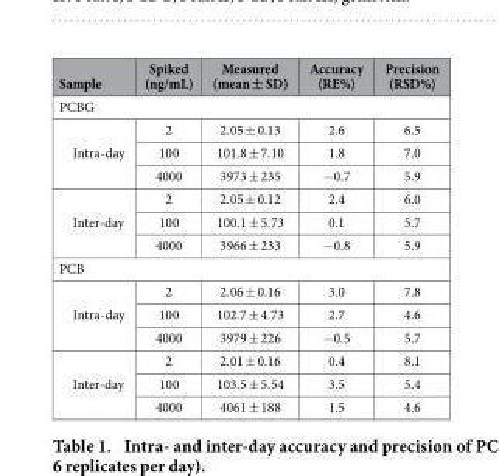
<table><thead><tr><td>Sample</td><td>Spiked (ng/mL)</td><td>Measured (mean ± SD)</td><td>Accuracy (RE%)</td><td>Precision (RSD%)</td></tr></thead><tbody><tr><td colspan="5">PCBG</td></tr><tr><td rowspan="3">Intra-day</td><td>2</td><td>2.05 ± 0.13</td><td>2.6</td><td>6.5</td></tr><tr><td>100</td><td>101.8 ± 7.10</td><td>1.8</td><td>7.0</td></tr><tr><td>4000</td><td>3973 ± 235</td><td>− 0.7</td><td>5.9</td></tr><tr><td rowspan="3">Inter-day</td><td>2</td><td>2.05 ± 0.12</td><td>2.4</td><td>6.0</td></tr><tr><td>100</td><td>100.1 ± 5.73</td><td>0.1</td><td>5.7</td></tr><tr><td>4000</td><td>3966 ± 233</td><td>− 0.8</td><td>5.9</td></tr><tr><td colspan="5">PCB</td></tr><tr><td rowspan="3">Intra-day</td><td>2</td><td>2.06 ± 0.16</td><td>3.0</td><td>7.8</td></tr><tr><td>100</td><td>102.7 ± 4.73</td><td>2.7</td><td>4.6</td></tr><tr><td>4000</td><td>3979 ± 226</td><td>− 0.5</td><td>5.7</td></tr><tr><td rowspan="3">Inter-day</td><td>2</td><td>2.01 ± 0.16</td><td>0.4</td><td>8.1</td></tr><tr><td>100</td><td>103.5 ± 5.54</td><td>3.5</td><td>5.4</td></tr><tr><td>4000</td><td>4061 ± 188</td><td>1.5</td><td>4.6</td></tr></tbody></table>